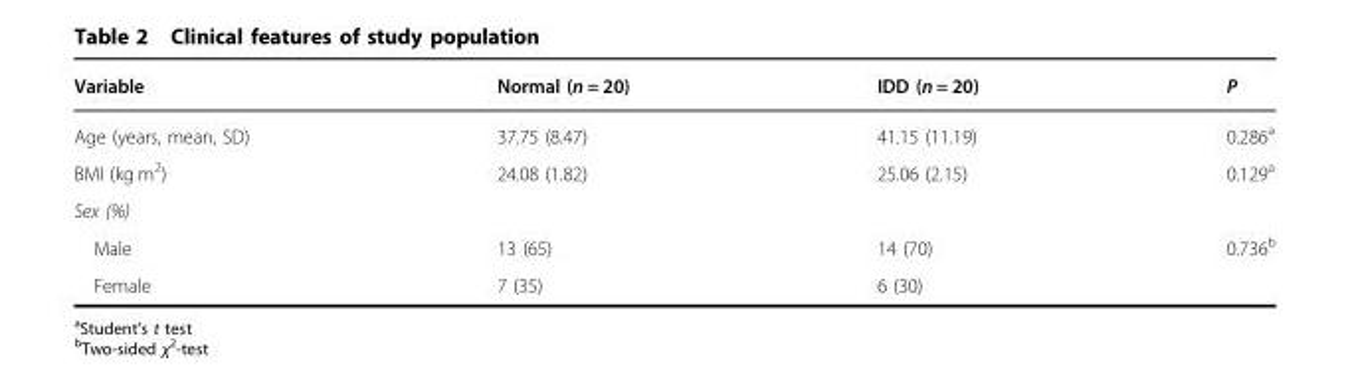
<table><thead><tr><td>Variable</td><td>Normal (n = 20)</td><td>IDD (n = 20)</td><td>P</td></tr></thead><tbody><tr><td>Age (years, mean, SD)</td><td>37.75 (8.47)</td><td>41.15 (11.19)</td><td>0.286<sup>a</sup></td></tr><tr><td>BMI (kg m<sup>2</sup>)</td><td>24.08 (1.82)</td><td>25.06 (2.15)</td><td>0.129<sup>a</sup></td></tr><tr><td colspan="4">Sex (%)</td></tr><tr><td>Male</td><td>13 (65)</td><td>14 (70)</td><td>0.736<sup>b</sup></td></tr><tr><td>Female</td><td>7 (35)</td><td>6 (30)</td><td></td></tr></tbody></table>